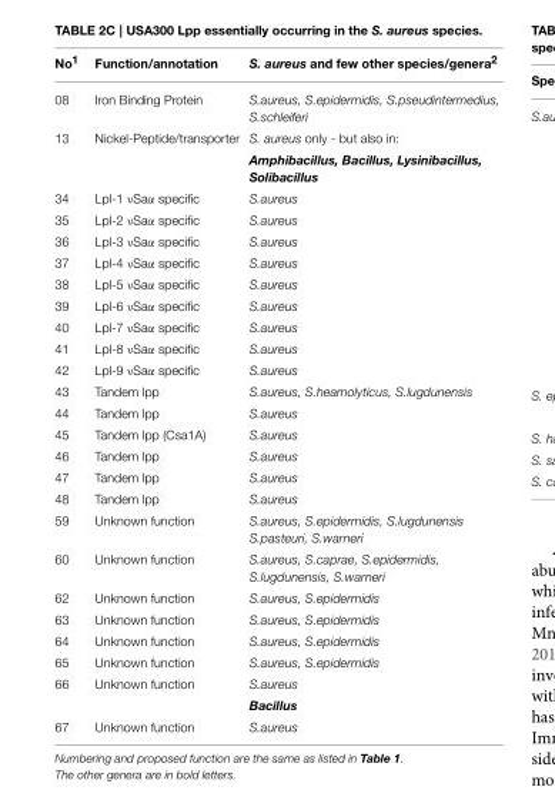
<table><thead><tr><td>No<sup>1</sup></td><td>Function/annotation</td><td>S. aureus and few other species/genera<sup>2</sup></td></tr></thead><tbody><tr><td>08</td><td>Iron Binding Protein</td><td>S.aureus, S.epidermidis, S.pseudintermedius, S.schleiferi</td></tr><tr><td rowspan="2">13</td><td>Nickel-Peptide/transporter</td><td>S. aureus only - but also in:</td></tr><tr><td></td><td>Amphibacillus, Bacillus, Lysinibacillus, Solibacillus</td></tr><tr><td>34</td><td>Lpl-1 νSaα specific</td><td>S.aureus</td></tr><tr><td>35</td><td>Lpl-2 νSaα specific</td><td>S.aureus</td></tr><tr><td>36</td><td>Lpl-3 νSaα specific</td><td>S.aureus</td></tr><tr><td>37</td><td>Lpl-4 νSaα specific</td><td>S.aureus</td></tr><tr><td>38</td><td>Lpl-5 νSaα specific</td><td>S.aureus</td></tr><tr><td>39</td><td>Lpl-6 νSaα specific</td><td>S.aureus</td></tr><tr><td>40</td><td>Lpl-7 νSaα specific</td><td>S.aureus</td></tr><tr><td>41</td><td>Lpl-8 νSaα specific</td><td>S.aureus</td></tr><tr><td>42</td><td>Lpl-9 νSaα specific</td><td>S.aureus</td></tr><tr><td>43</td><td>Tandem lpp</td><td>S.aureus, S.heamolyticus, S.lugdunensis</td></tr><tr><td>44</td><td>Tandem lpp</td><td>S.aureus</td></tr><tr><td>45</td><td>Tandem lpp (Csa1A)</td><td>S.aureus</td></tr><tr><td>46</td><td>Tandem lpp</td><td>S.aureus</td></tr><tr><td>47</td><td>Tandem lpp</td><td>S.aureus</td></tr><tr><td>48</td><td>Tandem lpp</td><td>S.aureus</td></tr><tr><td>59</td><td>Unknown function</td><td>S.aureus, S.epidermidis, S.lugdunensis S.pasteuri, S.warneri</td></tr><tr><td>60</td><td>Unknown function</td><td>S.aureus, S.caprae, S.epidermidis, S.lugdunensis, S.warneri</td></tr><tr><td>62</td><td>Unknown function</td><td>S.aureus, S.epidermidis</td></tr><tr><td>63</td><td>Unknown function</td><td>S.aureus, S.epidermidis</td></tr><tr><td>64</td><td>Unknown function</td><td>S.aureus, S.epidermidis</td></tr><tr><td>65</td><td>Unknown function</td><td>S.aureus, S.epidermidis</td></tr><tr><td rowspan="2">66</td><td>Unknown function</td><td>S.aureus</td></tr><tr><td></td><td>Bacillus</td></tr><tr><td>67</td><td>Unknown function</td><td>S.aureus</td></tr></tbody></table>